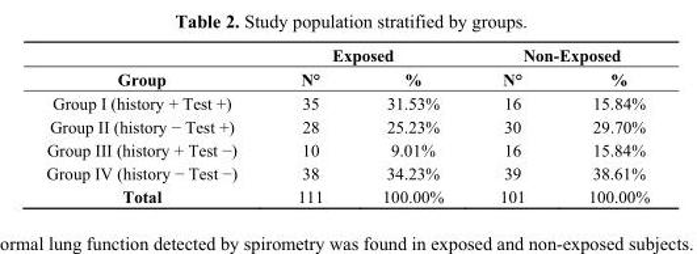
<table><thead><tr><td rowspan="2">Group</td><td colspan="2">Exposed</td><td colspan="2">Non-Exposed</td></tr><tr><td>N°</td><td>%</td><td>N°</td><td>%</td></tr></thead><tbody><tr><td>Group I (history + Test +)</td><td>35</td><td>31.53%</td><td>16</td><td>15.84%</td></tr><tr><td>Group II (history − Test +)</td><td>28</td><td>25.23%</td><td>30</td><td>29.70%</td></tr><tr><td>Group III (history + Test −)</td><td>10</td><td>9.01%</td><td>16</td><td>15.84%</td></tr><tr><td>Group IV (history − Test −)</td><td>38</td><td>34.23%</td><td>39</td><td>38.61%</td></tr><tr><td>Total</td><td>111</td><td>100.00%</td><td>101</td><td>100.00%</td></tr></tbody></table>